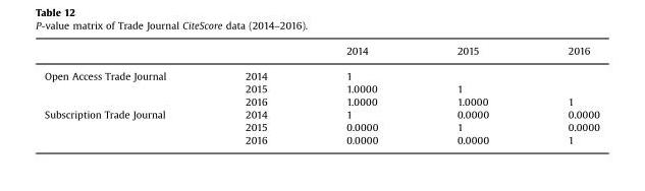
<table><thead><tr><td></td><td></td><td>2014</td><td>2015</td><td>2016</td></tr></thead><tbody><tr><td rowspan="3">Open Access Trade Journal</td><td>2014</td><td>1</td><td></td><td></td></tr><tr><td>2015</td><td>1.0000</td><td>1</td><td></td></tr><tr><td>2016</td><td>1.0000</td><td>1.0000</td><td>1</td></tr><tr><td rowspan="3">Subscription Trade Journal</td><td>2014</td><td>1</td><td>0.0000</td><td>0.0000</td></tr><tr><td>2015</td><td>0.0000</td><td>1</td><td>0.0000</td></tr><tr><td>2016</td><td>0.0000</td><td>0.0000</td><td>1</td></tr></tbody></table>